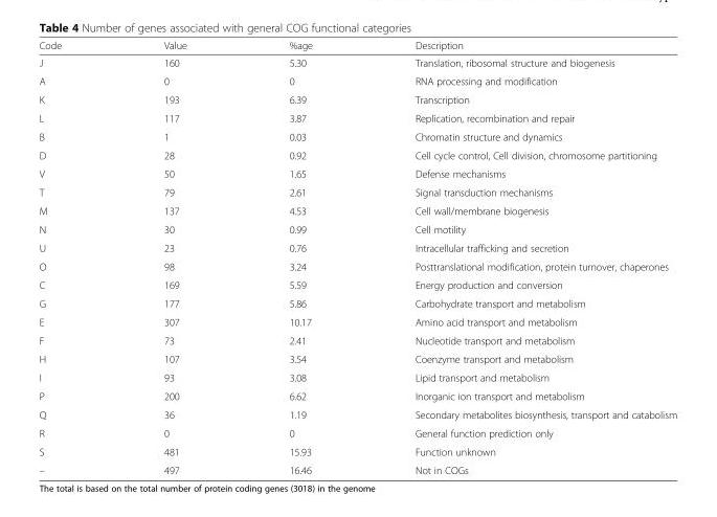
<table><thead><tr><td>Code</td><td>Value</td><td>%age</td><td>Description</td></tr></thead><tbody><tr><td>J</td><td>160</td><td>5.30</td><td>Translation, ribosomal structure and biogenesis</td></tr><tr><td>A</td><td>0</td><td>0</td><td>RNA processing and modification</td></tr><tr><td>K</td><td>193</td><td>6.39</td><td>Transcription</td></tr><tr><td>L</td><td>117</td><td>3.87</td><td>Replication, recombination and repair</td></tr><tr><td>B</td><td>1</td><td>0.03</td><td>Chromatin structure and dynamics</td></tr><tr><td>D</td><td>28</td><td>0.92</td><td>Cell cycle control, Cell division, chromosome partitioning</td></tr><tr><td>V</td><td>50</td><td>1.65</td><td>Defense mechanisms</td></tr><tr><td>T</td><td>79</td><td>2.61</td><td>Signal transduction mechanisms</td></tr><tr><td>M</td><td>137</td><td>4.53</td><td>Cell wall/membrane biogenesis</td></tr><tr><td>N</td><td>30</td><td>0.99</td><td>Cell motility</td></tr><tr><td>U</td><td>23</td><td>0.76</td><td>Intracellular trafficking and secretion</td></tr><tr><td>O</td><td>98</td><td>3.24</td><td>Posttranslational modification, protein turnover, chaperones</td></tr><tr><td>C</td><td>169</td><td>5.59</td><td>Energy production and conversion</td></tr><tr><td>G</td><td>177</td><td>5.86</td><td>Carbohydrate transport and metabolism</td></tr><tr><td>E</td><td>307</td><td>10.17</td><td>Amino acid transport and metabolism</td></tr><tr><td>F</td><td>73</td><td>2.41</td><td>Nucleotide transport and metabolism</td></tr><tr><td>H</td><td>107</td><td>3.54</td><td>Coenzyme transport and metabolism</td></tr><tr><td>I</td><td>93</td><td>3.08</td><td>Lipid transport and metabolism</td></tr><tr><td>P</td><td>200</td><td>6.62</td><td>Inorganic ion transport and metabolism</td></tr><tr><td>Q</td><td>36</td><td>1.19</td><td>Secondary metabolites biosynthesis, transport and catabolism</td></tr><tr><td>R</td><td>0</td><td>0</td><td>General function prediction only</td></tr><tr><td>S</td><td>481</td><td>15.93</td><td>Function unknown</td></tr><tr><td>–</td><td>497</td><td>16.46</td><td>Not in COGs</td></tr></tbody></table>